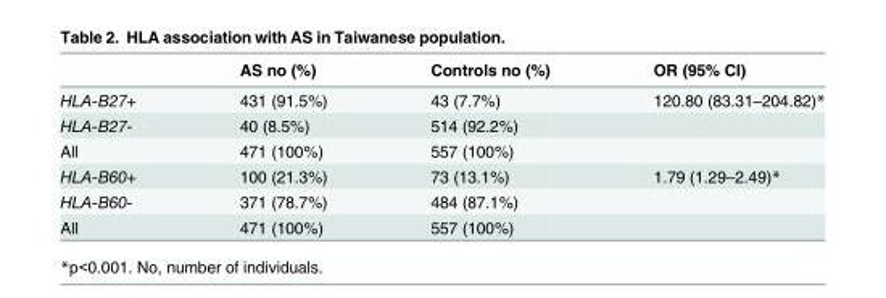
<table><thead><tr><td></td><td>AS no (%)</td><td>Controls no (%)</td><td>OR (95% CI)</td></tr></thead><tbody><tr><td>HLA-B27+</td><td>431 (91.5%)</td><td>43 (7.7%)</td><td>120.80 (83.31–204.82)*</td></tr><tr><td>HLA-B27-</td><td>40 (8.5%)</td><td>514 (92.2%)</td><td></td></tr><tr><td>All</td><td>471 (100%)</td><td>557 (100%)</td><td></td></tr><tr><td>HLA-B60+</td><td>100 (21.3%)</td><td>73 (13.1%)</td><td>1.79 (1.29–2.49)*</td></tr><tr><td>HLA-B60-</td><td>371 (78.7%)</td><td>484 (87.1%)</td><td></td></tr><tr><td>All</td><td>471 (100%)</td><td>557 (100%)</td><td></td></tr></tbody></table>